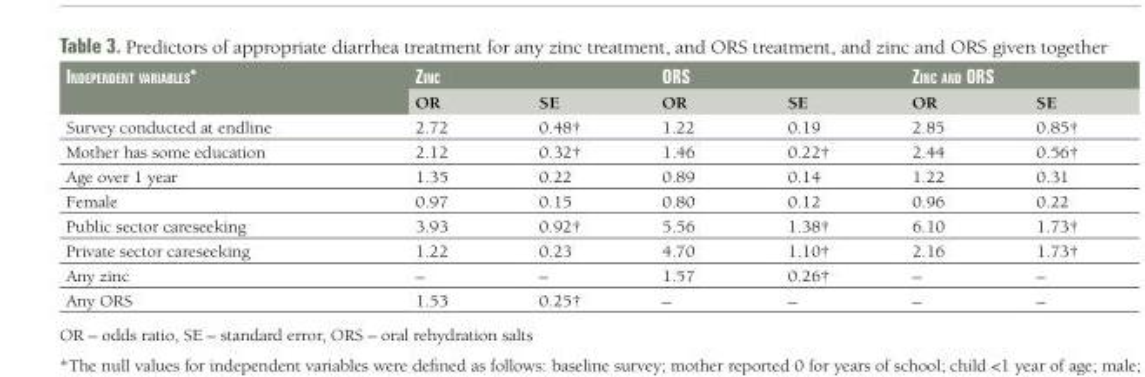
<table><thead><tr><td rowspan="2">indePendent variaBles*</td><td colspan="2">ZinC</td><td colspan="2">ors</td><td colspan="2">ZinC and ors</td></tr><tr><td>OR</td><td>SE</td><td>OR</td><td>SE</td><td>OR</td><td>SE</td></tr></thead><tbody><tr><td>Survey conducted at endline</td><td>2.72</td><td>0.48†</td><td>1.22</td><td>0.19</td><td>2.85</td><td>0.85†</td></tr><tr><td>Mother has some education</td><td>2.12</td><td>0.32†</td><td>1.46</td><td>0.22†</td><td>2.44</td><td>0.56†</td></tr><tr><td>Age over 1 year</td><td>1.35</td><td>0.22</td><td>0.89</td><td>0.14</td><td>1.22</td><td>0.31</td></tr><tr><td>Female</td><td>0.97</td><td>0.15</td><td>0.80</td><td>0.12</td><td>0.96</td><td>0.22</td></tr><tr><td>Public sector careseeking</td><td>3.93</td><td>0.92†</td><td>5.56</td><td>1.38†</td><td>6.10</td><td>1.73†</td></tr><tr><td>Private sector careseeking</td><td>1.22</td><td>0.23</td><td>4.70</td><td>1.10†</td><td>2.16</td><td>1.73†</td></tr><tr><td>Any zinc</td><td>–</td><td>–</td><td>1.57</td><td>0.26†</td><td>–</td><td>–</td></tr><tr><td>Any ORS</td><td>1.53</td><td>0.25†</td><td>–</td><td>–</td><td>–</td><td>–</td></tr></tbody></table>